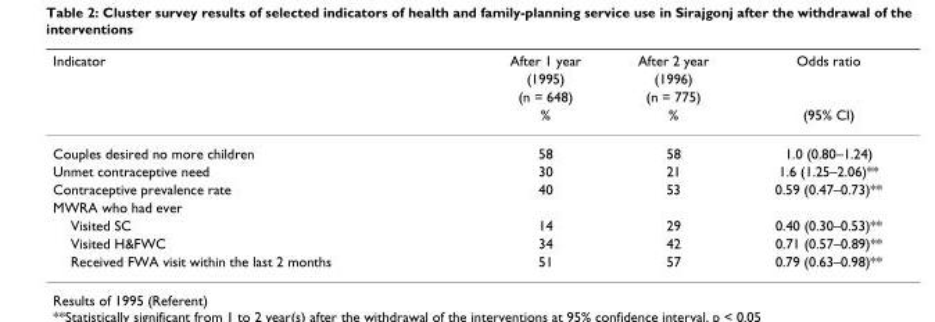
<table><thead><tr><td rowspan="4">Indicator</td><td rowspan="4">After 1 year (1995) (n = 648) %</td><td rowspan="4">After 2 year (1996) (n = 775) %</td><td rowspan="4">Odds ratio (95% CI)</td></tr><tr></tr><tr></tr><tr></tr></thead><tbody><tr><td>Couples desired no more children</td><td>58</td><td>58</td><td>1.0 (0.80–1.24)</td></tr><tr><td>Unmet contraceptive need</td><td>30</td><td>21</td><td>1.6 (1.25–2.06)**</td></tr><tr><td>Contraceptive prevalence rate</td><td>40</td><td>53</td><td>0.59 (0.47–0.73)**</td></tr><tr><td colspan="4">MWRA who had ever</td></tr><tr><td>Visited SC</td><td>14</td><td>29</td><td>0.40 (0.30–0.53)**</td></tr><tr><td>Visited H&amp;FWC</td><td>34</td><td>42</td><td>0.71 (0.57–0.89)**</td></tr><tr><td>Received FWA visit within the last 2 months</td><td>51</td><td>57</td><td>0.79 (0.63–0.98)**</td></tr></tbody></table>